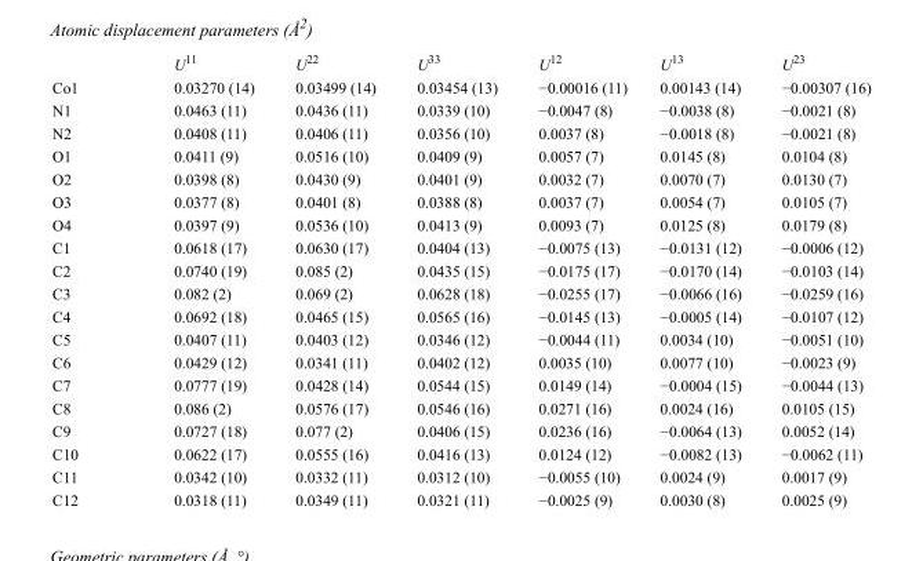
<table><thead><tr><td></td><td>U<sup>11</sup></td><td>U<sup>22</sup></td><td>U<sup>33</sup></td><td>U<sup>12</sup></td><td>U<sup>13</sup></td><td>U<sup>23</sup></td></tr></thead><tbody><tr><td>Co1</td><td>0.03270 (14)</td><td>0.03499 (14)</td><td>0.03454 (13)</td><td>−0.00016 (11)</td><td>0.00143 (14)</td><td>−0.00307 (16)</td></tr><tr><td>N1</td><td>0.0463 (11)</td><td>0.0436 (11)</td><td>0.0339 (10)</td><td>−0.0047 (8)</td><td>−0.0038 (8)</td><td>−0.0021 (8)</td></tr><tr><td>N2</td><td>0.0408 (11)</td><td>0.0406 (11)</td><td>0.0356 (10)</td><td>0.0037 (8)</td><td>−0.0018 (8)</td><td>−0.0021 (8)</td></tr><tr><td>O1</td><td>0.0411 (9)</td><td>0.0516 (10)</td><td>0.0409 (9)</td><td>0.0057 (7)</td><td>0.0145 (8)</td><td>0.0104 (8)</td></tr><tr><td>O2</td><td>0.0398 (8)</td><td>0.0430 (9)</td><td>0.0401 (9)</td><td>0.0032 (7)</td><td>0.0070 (7)</td><td>0.0130 (7)</td></tr><tr><td>O3</td><td>0.0377 (8)</td><td>0.0401 (8)</td><td>0.0388 (8)</td><td>0.0037 (7)</td><td>0.0054 (7)</td><td>0.0105 (7)</td></tr><tr><td>O4</td><td>0.0397 (9)</td><td>0.0536 (10)</td><td>0.0413 (9)</td><td>0.0093 (7)</td><td>0.0125 (8)</td><td>0.0179 (8)</td></tr><tr><td>C1</td><td>0.0618 (17)</td><td>0.0630 (17)</td><td>0.0404 (13)</td><td>−0.0075 (13)</td><td>−0.0131 (12)</td><td>−0.0006 (12)</td></tr><tr><td>C2</td><td>0.0740 (19)</td><td>0.085 (2)</td><td>0.0435 (15)</td><td>−0.0175 (17)</td><td>−0.0170 (14)</td><td>−0.0103 (14)</td></tr><tr><td>C3</td><td>0.082 (2)</td><td>0.069 (2)</td><td>0.0628 (18)</td><td>−0.0255 (17)</td><td>−0.0066 (16)</td><td>−0.0259 (16)</td></tr><tr><td>C4</td><td>0.0692 (18)</td><td>0.0465 (15)</td><td>0.0565 (16)</td><td>−0.0145 (13)</td><td>−0.0005 (14)</td><td>−0.0107 (12)</td></tr><tr><td>C5</td><td>0.0407 (11)</td><td>0.0403 (12)</td><td>0.0346 (12)</td><td>−0.0044 (11)</td><td>0.0034 (10)</td><td>−0.0051 (10)</td></tr><tr><td>C6</td><td>0.0429 (12)</td><td>0.0341 (11)</td><td>0.0402 (12)</td><td>0.0035 (10)</td><td>0.0077 (10)</td><td>−0.0023 (9)</td></tr><tr><td>C7</td><td>0.0777 (19)</td><td>0.0428 (14)</td><td>0.0544 (15)</td><td>0.0149 (14)</td><td>−0.0004 (15)</td><td>−0.0044 (13)</td></tr><tr><td>C8</td><td>0.086 (2)</td><td>0.0576 (17)</td><td>0.0546 (16)</td><td>0.0271 (16)</td><td>0.0024 (16)</td><td>0.0105 (15)</td></tr><tr><td>C9</td><td>0.0727 (18)</td><td>0.077 (2)</td><td>0.0406 (15)</td><td>0.0236 (16)</td><td>−0.0064 (13)</td><td>0.0052 (14)</td></tr><tr><td>C10</td><td>0.0622 (17)</td><td>0.0555 (16)</td><td>0.0416 (13)</td><td>0.0124 (12)</td><td>−0.0082 (13)</td><td>−0.0062 (11)</td></tr><tr><td>C11</td><td>0.0342 (10)</td><td>0.0332 (11)</td><td>0.0312 (10)</td><td>−0.0055 (10)</td><td>0.0024 (9)</td><td>0.0017 (9)</td></tr><tr><td>C12</td><td>0.0318 (11)</td><td>0.0349 (11)</td><td>0.0321 (11)</td><td>−0.0025 (9)</td><td>0.0030 (8)</td><td>0.0025 (9)</td></tr></tbody></table>